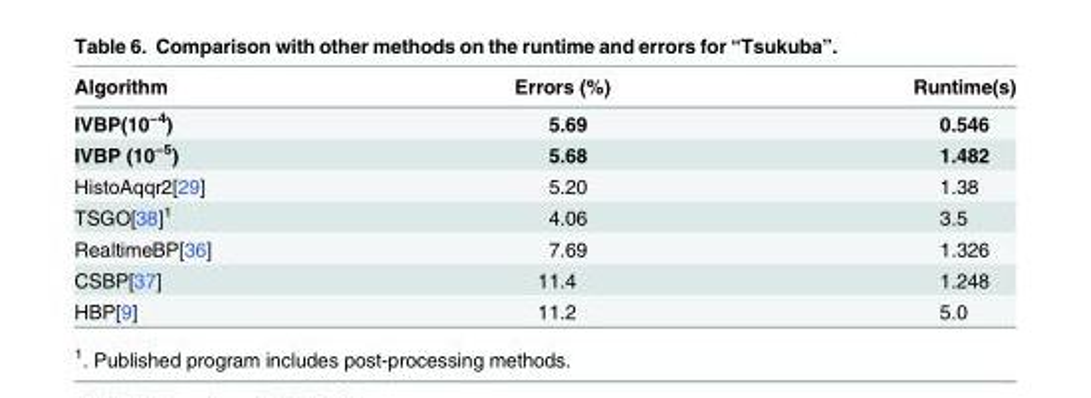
<table><thead><tr><td>Algorithm</td><td>Errors (%)</td><td>Runtime(s)</td></tr></thead><tbody><tr><td>IVBP(10<sup>−4</sup>)</td><td>5.69</td><td>0.546</td></tr><tr><td>IVBP (10<sup>−5</sup>)</td><td>5.68</td><td>1.482</td></tr><tr><td>HistoAqqr2[29]</td><td>5.20</td><td>1.38</td></tr><tr><td>TSGO[38]<sup>1</sup></td><td>4.06</td><td>3.5</td></tr><tr><td>RealtimeBP[36]</td><td>7.69</td><td>1.326</td></tr><tr><td>CSBP[37]</td><td>11.4</td><td>1.248</td></tr><tr><td>HBP[9]</td><td>11.2</td><td>5.0</td></tr></tbody></table>